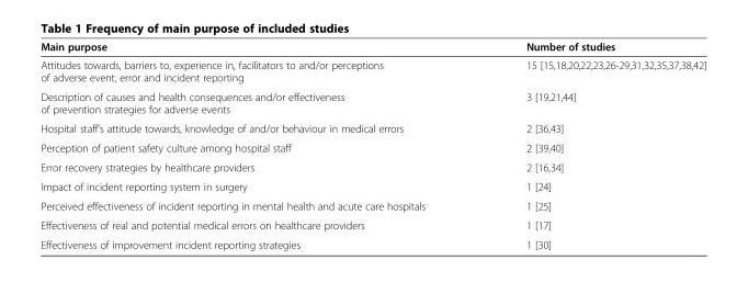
<table><thead><tr><td>Main purpose</td><td>Number of studies</td></tr></thead><tbody><tr><td>Attitudes towards, barriers to, experience in, facilitators to and/or perceptions of adverse event, error and incident reporting</td><td>15 [15,18,20,22,23,26-29,31,32,35,37,38,42]</td></tr><tr><td>Description of causes and health consequences and/or effectiveness of prevention strategies for adverse events</td><td>3 [19,21,44]</td></tr><tr><td>Hospital staff’s attitude towards, knowledge of and/or behaviour in medical errors</td><td>2 [36,43]</td></tr><tr><td>Perception of patient safety culture among hospital staff</td><td>2 [39,40]</td></tr><tr><td>Error recovery strategies by healthcare providers</td><td>2 [16,34]</td></tr><tr><td>Impact of incident reporting system in surgery</td><td>1 [24]</td></tr><tr><td>Perceived effectiveness of incident reporting in mental health and acute care hospitals</td><td>1 [25]</td></tr><tr><td>Effectiveness of real and potential medical errors on healthcare providers</td><td>1 [17]</td></tr><tr><td>Effectiveness of improvement incident reporting strategies</td><td>1 [30]</td></tr></tbody></table>